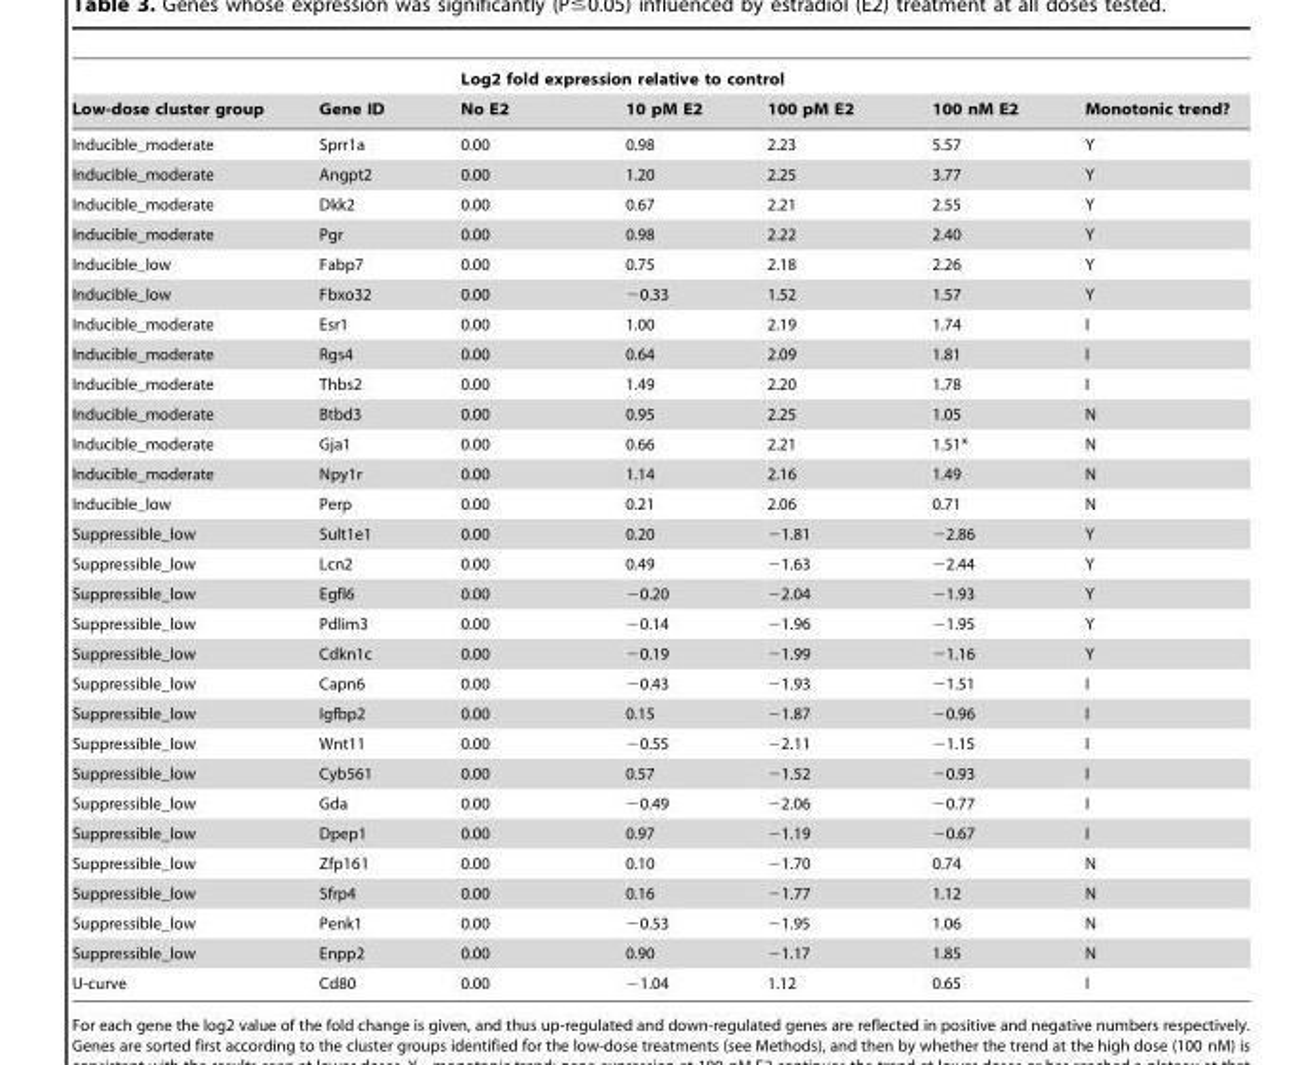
<table><thead><tr><td rowspan="2">Low-dose cluster group</td><td rowspan="2">Gene ID</td><td colspan="4">Log2 fold expression relative to control</td><td rowspan="2">Monotonic trend?</td></tr><tr><td>No E2</td><td>10 pM E2</td><td>100 pM E2</td><td>100 nM E2</td></tr></thead><tbody><tr><td>Inducible_moderate</td><td>Sprr1a</td><td>0.00</td><td>0.98</td><td>2.23</td><td>5.57</td><td>Y</td></tr><tr><td>Inducible_moderate</td><td>Angpt2</td><td>0.00</td><td>1.20</td><td>2.25</td><td>3.77</td><td>Y</td></tr><tr><td>Inducible_moderate</td><td>Dkk2</td><td>0.00</td><td>0.67</td><td>2.21</td><td>2.55</td><td>Y</td></tr><tr><td>Inducible_moderate</td><td>Pgr</td><td>0.00</td><td>0.98</td><td>2.22</td><td>2.40</td><td>Y</td></tr><tr><td>Inducible_low</td><td>Fabp7</td><td>0.00</td><td>0.75</td><td>2.18</td><td>2.26</td><td>Y</td></tr><tr><td>Inducible_low</td><td>Fbxo32</td><td>0.00</td><td>−0.33</td><td>1.52</td><td>1.57</td><td>Y</td></tr><tr><td>Inducible_moderate</td><td>Esr1</td><td>0.00</td><td>1.00</td><td>2.19</td><td>1.74</td><td>I</td></tr><tr><td>Inducible_moderate</td><td>Rgs4</td><td>0.00</td><td>0.64</td><td>2.09</td><td>1.81</td><td>I</td></tr><tr><td>Inducible_moderate</td><td>Thbs2</td><td>0.00</td><td>1.49</td><td>2.20</td><td>1.78</td><td>I</td></tr><tr><td>Inducible_moderate</td><td>Btbd3</td><td>0.00</td><td>0.95</td><td>2.25</td><td>1.05</td><td>N</td></tr><tr><td>Inducible_moderate</td><td>Gja1</td><td>0.00</td><td>0.66</td><td>2.21</td><td>1.51*</td><td>N</td></tr><tr><td>Inducible_moderate</td><td>Npy1r</td><td>0.00</td><td>1.14</td><td>2.16</td><td>1.49</td><td>N</td></tr><tr><td>Inducible_low</td><td>Perp</td><td>0.00</td><td>0.21</td><td>2.06</td><td>0.71</td><td>N</td></tr><tr><td>Suppressible_low</td><td>Sult1e1</td><td>0.00</td><td>0.20</td><td>−1.81</td><td>−2.86</td><td>Y</td></tr><tr><td>Suppressible_low</td><td>Lcn2</td><td>0.00</td><td>0.49</td><td>−1.63</td><td>−2.44</td><td>Y</td></tr><tr><td>Suppressible_low</td><td>Egfl6</td><td>0.00</td><td>−0.20</td><td>−2.04</td><td>−1.93</td><td>Y</td></tr><tr><td>Suppressible_low</td><td>Pdlim3</td><td>0.00</td><td>−0.14</td><td>−1.96</td><td>−1.95</td><td>Y</td></tr><tr><td>Suppressible_low</td><td>Cdkn1c</td><td>0.00</td><td>−0.19</td><td>−1.99</td><td>−1.16</td><td>Y</td></tr><tr><td>Suppressible_low</td><td>Capn6</td><td>0.00</td><td>−0.43</td><td>−1.93</td><td>−1.51</td><td>I</td></tr><tr><td>Suppressible_low</td><td>Igfbp2</td><td>0.00</td><td>0.15</td><td>−1.87</td><td>−0.96</td><td>I</td></tr><tr><td>Suppressible_low</td><td>Wnt11</td><td>0.00</td><td>−0.55</td><td>−2.11</td><td>−1.15</td><td>I</td></tr><tr><td>Suppressible_low</td><td>Cyb561</td><td>0.00</td><td>0.57</td><td>−1.52</td><td>−0.93</td><td>I</td></tr><tr><td>Suppressible_low</td><td>Gda</td><td>0.00</td><td>−0.49</td><td>−2.06</td><td>−0.77</td><td>I</td></tr><tr><td>Suppressible_low</td><td>Dpep1</td><td>0.00</td><td>0.97</td><td>−1.19</td><td>−0.67</td><td>I</td></tr><tr><td>Suppressible_low</td><td>Zfp161</td><td>0.00</td><td>0.10</td><td>−1.70</td><td>0.74</td><td>N</td></tr><tr><td>Suppressible_low</td><td>Sfrp4</td><td>0.00</td><td>0.16</td><td>−1.77</td><td>1.12</td><td>N</td></tr><tr><td>Suppressible_low</td><td>Penk1</td><td>0.00</td><td>−0.53</td><td>−1.95</td><td>1.06</td><td>N</td></tr><tr><td>Suppressible_low</td><td>Enpp2</td><td>0.00</td><td>0.90</td><td>−1.17</td><td>1.85</td><td>N</td></tr><tr><td>U-curve</td><td>Cd80</td><td>0.00</td><td>−1.04</td><td>1.12</td><td>0.65</td><td>I</td></tr></tbody></table>